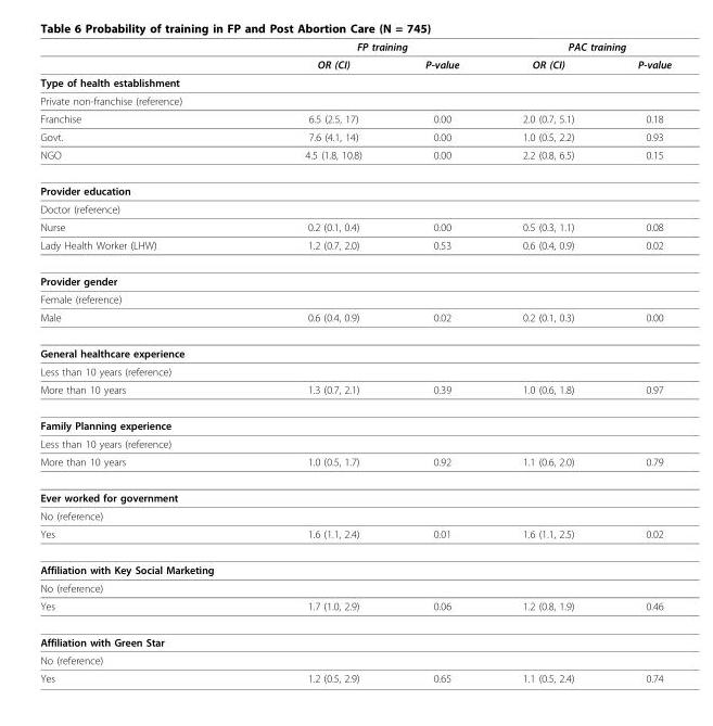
<table><thead><tr><td rowspan="2"></td><td colspan="2">FP training</td><td colspan="2">PAC training</td></tr><tr><td>OR (CI)</td><td>P-value</td><td>OR (CI)</td><td>P-value</td></tr></thead><tbody><tr><td colspan="5">Type of health establishment</td></tr><tr><td colspan="5">Private non-franchise (reference)</td></tr><tr><td>Franchise</td><td>6.5 (2.5, 17)</td><td>0.00</td><td>2.0 (0.7, 5.1)</td><td>0.18</td></tr><tr><td>Govt.</td><td>7.6 (4.1, 14)</td><td>0.00</td><td>1.0 (0.5, 2.2)</td><td>0.93</td></tr><tr><td>NGO</td><td>4.5 (1.8, 10.8)</td><td>0.00</td><td>2.2 (0.8, 6.5)</td><td>0.15</td></tr><tr><td colspan="5">Provider education</td></tr><tr><td colspan="5">Doctor (reference)</td></tr><tr><td>Nurse</td><td>0.2 (0.1, 0.4)</td><td>0.00</td><td>0.5 (0.3, 1.1)</td><td>0.08</td></tr><tr><td>Lady Health Worker (LHW)</td><td>1.2 (0.7, 2.0)</td><td>0.53</td><td>0.6 (0.4, 0.9)</td><td>0.02</td></tr><tr><td colspan="5">Provider gender</td></tr><tr><td colspan="5">Female (reference)</td></tr><tr><td>Male</td><td>0.6 (0.4, 0.9)</td><td>0.02</td><td>0.2 (0.1, 0.3)</td><td>0.00</td></tr><tr><td colspan="5">General healthcare experience</td></tr><tr><td colspan="5">Less than 10 years (reference)</td></tr><tr><td>More than 10 years</td><td>1.3 (0.7, 2.1)</td><td>0.39</td><td>1.0 (0.6, 1.8)</td><td>0.97</td></tr><tr><td colspan="5">Family Planning experience</td></tr><tr><td colspan="5">Less than 10 years (reference)</td></tr><tr><td>More than 10 years</td><td>1.0 (0.5, 1.7)</td><td>0.92</td><td>1.1 (0.6, 2.0)</td><td>0.79</td></tr><tr><td colspan="5">Ever worked for government</td></tr><tr><td colspan="5">No (reference)</td></tr><tr><td>Yes</td><td>1.6 (1.1, 2.4)</td><td>0.01</td><td>1.6 (1.1, 2.5)</td><td>0.02</td></tr><tr><td colspan="5">Affiliation with Key Social Marketing</td></tr><tr><td colspan="5">No (reference)</td></tr><tr><td>Yes</td><td>1.7 (1.0, 2.9)</td><td>0.06</td><td>1.2 (0.8, 1.9)</td><td>0.46</td></tr><tr><td colspan="5">Affiliation with Green Star</td></tr><tr><td colspan="5">No (reference)</td></tr><tr><td>Yes</td><td>1.2 (0.5, 2.9)</td><td>0.65</td><td>1.1 (0.5, 2.4)</td><td>0.74</td></tr></tbody></table>